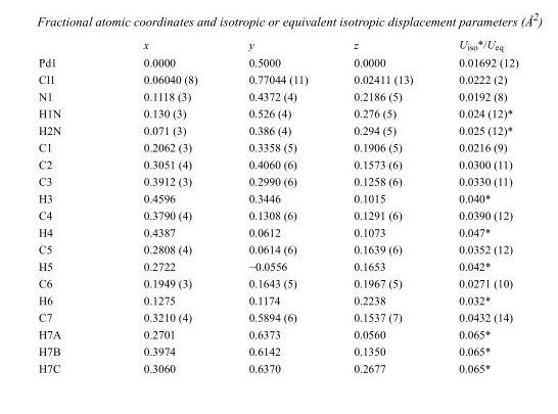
<table><thead><tr><td></td><td>x</td><td>y</td><td>z</td><td>U<sub>iso</sub>*/U<sub>eq</sub></td></tr></thead><tbody><tr><td>Pd1</td><td>0.0000</td><td>0.5000</td><td>0.0000</td><td>0.01692 (12)</td></tr><tr><td>Cl1</td><td>0.06040 (8)</td><td>0.77044 (11)</td><td>0.02411 (13)</td><td>0.0222 (2)</td></tr><tr><td>N1</td><td>0.1118 (3)</td><td>0.4372 (4)</td><td>0.2186 (5)</td><td>0.0192 (8)</td></tr><tr><td>H1N</td><td>0.130 (3)</td><td>0.526 (4)</td><td>0.276 (5)</td><td>0.024 (12)*</td></tr><tr><td>H2N</td><td>0.071 (3)</td><td>0.386 (4)</td><td>0.294 (5)</td><td>0.025 (12)*</td></tr><tr><td>C1</td><td>0.2062 (3)</td><td>0.3358 (5)</td><td>0.1906 (5)</td><td>0.0216 (9)</td></tr><tr><td>C2</td><td>0.3051 (4)</td><td>0.4060 (6)</td><td>0.1573 (6)</td><td>0.0300 (11)</td></tr><tr><td>C3</td><td>0.3912 (3)</td><td>0.2990 (6)</td><td>0.1258 (6)</td><td>0.0330 (11)</td></tr><tr><td>H3</td><td>0.4596</td><td>0.3446</td><td>0.1015</td><td>0.040*</td></tr><tr><td>C4</td><td>0.3790 (4)</td><td>0.1308 (6)</td><td>0.1291 (6)</td><td>0.0390 (12)</td></tr><tr><td>H4</td><td>0.4387</td><td>0.0612</td><td>0.1073</td><td>0.047*</td></tr><tr><td>C5</td><td>0.2808 (4)</td><td>0.0614 (6)</td><td>0.1639 (6)</td><td>0.0352 (12)</td></tr><tr><td>H5</td><td>0.2722</td><td>−0.0556</td><td>0.1653</td><td>0.042*</td></tr><tr><td>C6</td><td>0.1949 (3)</td><td>0.1643 (5)</td><td>0.1967 (5)</td><td>0.0271 (10)</td></tr><tr><td>H6</td><td>0.1275</td><td>0.1174</td><td>0.2238</td><td>0.032*</td></tr><tr><td>C7</td><td>0.3210 (4)</td><td>0.5894 (6)</td><td>0.1537 (7)</td><td>0.0432 (14)</td></tr><tr><td>H7A</td><td>0.2701</td><td>0.6373</td><td>0.0560</td><td>0.065*</td></tr><tr><td>H7B</td><td>0.3974</td><td>0.6142</td><td>0.1350</td><td>0.065*</td></tr><tr><td>H7C</td><td>0.3060</td><td>0.6370</td><td>0.2677</td><td>0.065*</td></tr></tbody></table>